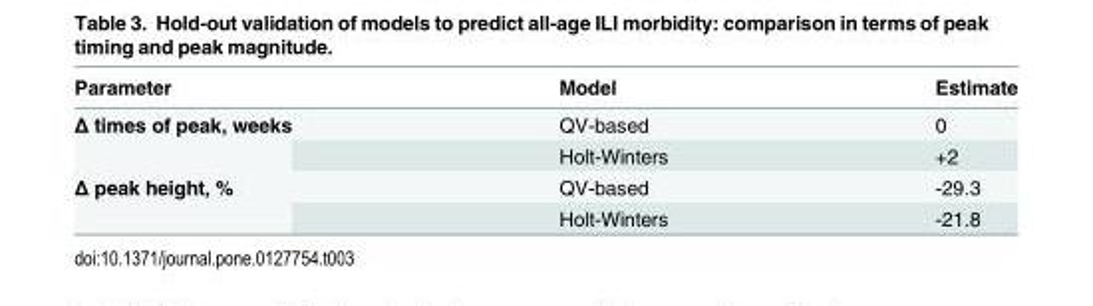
<table><thead><tr><td>Parameter</td><td>Model</td><td>Estimate</td></tr></thead><tbody><tr><td rowspan="2">Δ times of peak, weeks</td><td>QV-based</td><td>0</td></tr><tr><td>Holt-Winters</td><td>+2</td></tr><tr><td rowspan="2">Δ peak height, %</td><td>QV-based</td><td>-29.3</td></tr><tr><td>Holt-Winters</td><td>-21.8</td></tr></tbody></table>